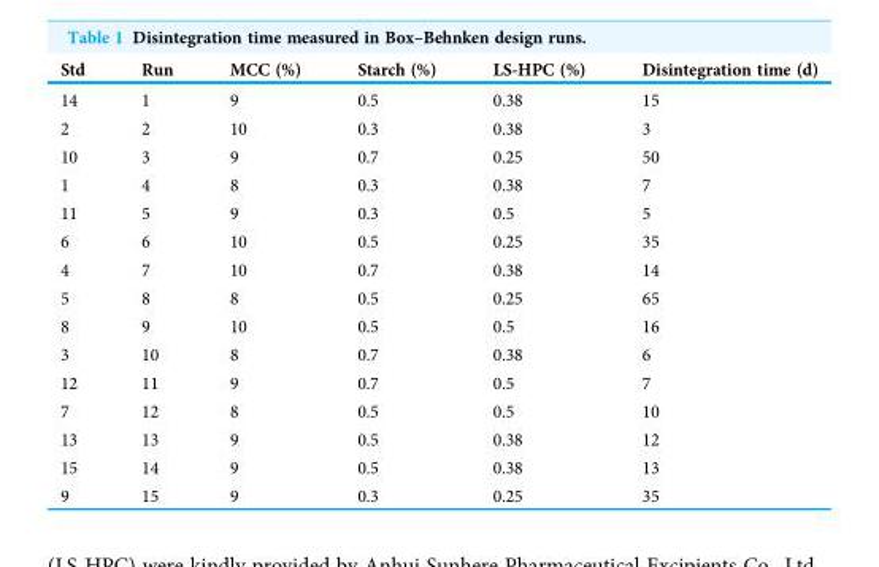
<table><thead><tr><td>Std</td><td>Run</td><td>MCC (%)</td><td>Starch (%)</td><td>LS-HPC (%)</td><td>Disintegration time (d)</td></tr></thead><tbody><tr><td>14</td><td>1</td><td>9</td><td>0.5</td><td>0.38</td><td>15</td></tr><tr><td>2</td><td>2</td><td>10</td><td>0.3</td><td>0.38</td><td>3</td></tr><tr><td>10</td><td>3</td><td>9</td><td>0.7</td><td>0.25</td><td>50</td></tr><tr><td>1</td><td>4</td><td>8</td><td>0.3</td><td>0.38</td><td>7</td></tr><tr><td>11</td><td>5</td><td>9</td><td>0.3</td><td>0.5</td><td>5</td></tr><tr><td>6</td><td>6</td><td>10</td><td>0.5</td><td>0.25</td><td>35</td></tr><tr><td>4</td><td>7</td><td>10</td><td>0.7</td><td>0.38</td><td>14</td></tr><tr><td>5</td><td>8</td><td>8</td><td>0.5</td><td>0.25</td><td>65</td></tr><tr><td>8</td><td>9</td><td>10</td><td>0.5</td><td>0.5</td><td>16</td></tr><tr><td>3</td><td>10</td><td>8</td><td>0.7</td><td>0.38</td><td>6</td></tr><tr><td>12</td><td>11</td><td>9</td><td>0.7</td><td>0.5</td><td>7</td></tr><tr><td>7</td><td>12</td><td>8</td><td>0.5</td><td>0.5</td><td>10</td></tr><tr><td>13</td><td>13</td><td>9</td><td>0.5</td><td>0.38</td><td>12</td></tr><tr><td>15</td><td>14</td><td>9</td><td>0.5</td><td>0.38</td><td>13</td></tr><tr><td>9</td><td>15</td><td>9</td><td>0.3</td><td>0.25</td><td>35</td></tr></tbody></table>